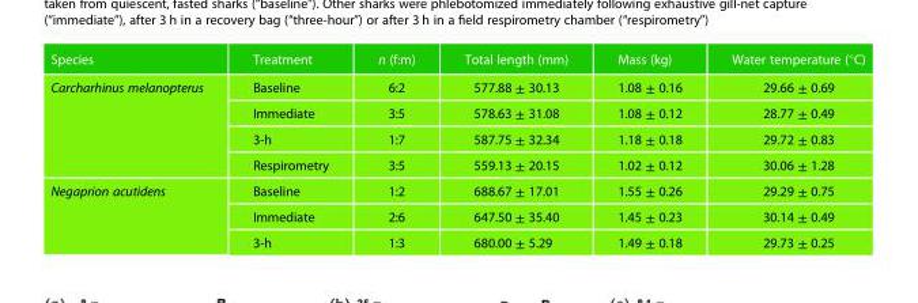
<table><thead><tr><td>Species</td><td>Treatment</td><td>n (f:m)</td><td>Total length (mm)</td><td>Mass (kg)</td><td>Water temperature (°C)</td></tr></thead><tbody><tr><td rowspan="4">Carcharhinus melanopterus</td><td>Baseline</td><td>6:2</td><td>577.88 ± 30.13</td><td>1.08 ± 0.16</td><td>29.66 ± 0.69</td></tr><tr><td>Immediate</td><td>3:5</td><td>578.63 ± 31.08</td><td>1.08 ± 0.12</td><td>28.77 ± 0.49</td></tr><tr><td>3-h</td><td>1:7</td><td>587.75 ± 32.34</td><td>1.18 ± 0.18</td><td>29.72 ± 0.83</td></tr><tr><td>Respirometry</td><td>3:5</td><td>559.13 ± 20.15</td><td>1.02 ± 0.12</td><td>30.06 ± 1.28</td></tr><tr><td rowspan="3">Negaprion acutidens</td><td>Baseline</td><td>1:2</td><td>688.67 ± 17.01</td><td>1.55 ± 0.26</td><td>29.29 ± 0.75</td></tr><tr><td>Immediate</td><td>2:6</td><td>647.50 ± 35.40</td><td>1.45 ± 0.23</td><td>30.14 ± 0.49</td></tr><tr><td>3-h</td><td>1:3</td><td>680.00 ± 5.29</td><td>1.49 ± 0.18</td><td>29.73 ± 0.25</td></tr></tbody></table>